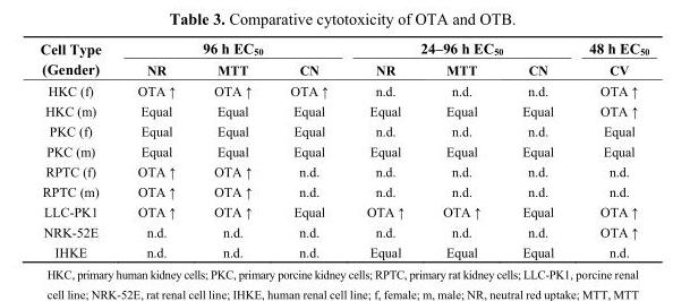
<table><thead><tr><td rowspan="2">Cell Type (Gender)</td><td colspan="3">96 h EC<sub>50</sub></td><td colspan="3">24–96 h EC<sub>50</sub></td><td rowspan="2">48 h EC<sub>50</sub> CV</td></tr><tr><td>NR</td><td>MTT</td><td>CN</td><td>NR</td><td>MTT</td><td>CN</td></tr></thead><tbody><tr><td>HKC (f)</td><td>OTA ↑</td><td>OTA ↑</td><td>OTA ↑</td><td>n.d.</td><td>n.d.</td><td>n.d.</td><td>OTA ↑</td></tr><tr><td>HKC (m)</td><td>Equal</td><td>Equal</td><td>Equal</td><td>Equal</td><td>Equal</td><td>Equal</td><td>OTA ↑</td></tr><tr><td>PKC (f)</td><td>Equal</td><td>Equal</td><td>Equal</td><td>n.d.</td><td>n.d.</td><td>n.d.</td><td>Equal</td></tr><tr><td>PKC (m)</td><td>Equal</td><td>Equal</td><td>Equal</td><td>Equal</td><td>Equal</td><td>Equal</td><td>Equal</td></tr><tr><td>RPTC (f)</td><td>OTA ↑</td><td>OTA ↑</td><td>n.d.</td><td>n.d.</td><td>n.d.</td><td>n.d.</td><td>n.d.</td></tr><tr><td>RPTC (m)</td><td>OTA ↑</td><td>OTA ↑</td><td>n.d.</td><td>n.d.</td><td>n.d.</td><td>n.d.</td><td>n.d.</td></tr><tr><td>LLC-PK1</td><td>OTA ↑</td><td>OTA ↑</td><td>Equal</td><td>OTA ↑</td><td>OTA ↑</td><td>Equal</td><td>OTA ↑</td></tr><tr><td>NRK-52E</td><td>n.d.</td><td>n.d.</td><td>n.d.</td><td>n.d.</td><td>n.d.</td><td>n.d.</td><td>OTA ↑</td></tr><tr><td>IHKE</td><td>n.d.</td><td>n.d.</td><td>n.d.</td><td>Equal</td><td>Equal</td><td>Equal</td><td>n.d.</td></tr></tbody></table>